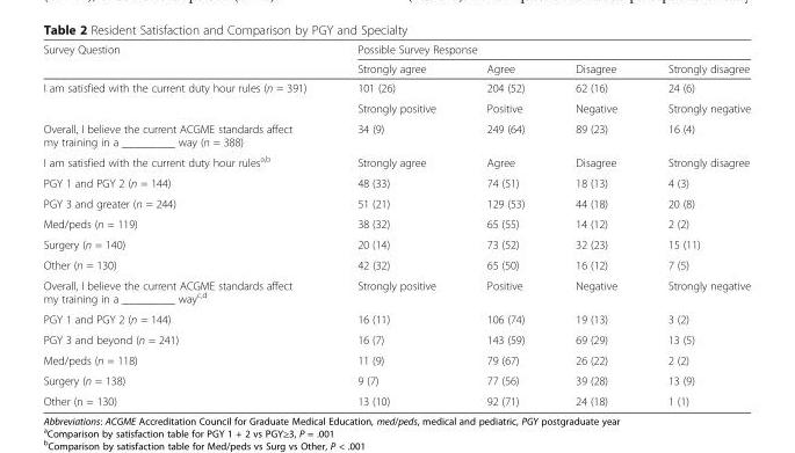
<table><thead><tr><td rowspan="2">Survey Question</td><td colspan="4">Possible Survey Response</td></tr><tr><td>Strongly agree</td><td>Agree</td><td>Disagree</td><td>Strongly disagree</td></tr></thead><tbody><tr><td rowspan="2">I am satisfied with the current duty hour rules (n = 391)</td><td>101 (26)</td><td>204 (52)</td><td>62 (16)</td><td>24 (6)</td></tr><tr><td>Strongly positive</td><td>Positive</td><td>Negative</td><td>Strongly negative</td></tr><tr><td>Overall, I believe the current ACGME standards affect my training in a _________ way (n = 388)</td><td>34 (9)</td><td>249 (64)</td><td>89 (23)</td><td>16 (4)</td></tr><tr><td>I am satisfied with the current duty hour rules<sup>a,b</sup></td><td>Strongly agree</td><td>Agree</td><td>Disagree</td><td>Strongly disagree</td></tr><tr><td>PGY 1 and PGY 2 (n = 144)</td><td>48 (33)</td><td>74 (51)</td><td>18 (13)</td><td>4 (3)</td></tr><tr><td>PGY 3 and greater (n = 244)</td><td>51 (21)</td><td>129 (53)</td><td>44 (18)</td><td>20 (8)</td></tr><tr><td>Med/peds (n = 119)</td><td>38 (32)</td><td>65 (55)</td><td>14 (12)</td><td>2 (2)</td></tr><tr><td>Surgery (n = 140)</td><td>20 (14)</td><td>73 (52)</td><td>32 (23)</td><td>15 (11)</td></tr><tr><td>Other (n = 130)</td><td>42 (32)</td><td>65 (50)</td><td>16 (12)</td><td>7 (5)</td></tr><tr><td>Overall, I believe the current ACGME standards affect my training in a _________ way<sup>c,d</sup></td><td>Strongly positive</td><td>Positive</td><td>Negative</td><td>Strongly negative</td></tr><tr><td>PGY 1 and PGY 2 (n = 144)</td><td>16 (11)</td><td>106 (74)</td><td>19 (13)</td><td>3 (2)</td></tr><tr><td>PGY 3 and beyond (n = 241)</td><td>16 (7)</td><td>143 (59)</td><td>69 (29)</td><td>13 (5)</td></tr><tr><td>Med/peds (n = 118)</td><td>11 (9)</td><td>79 (67)</td><td>26 (22)</td><td>2 (2)</td></tr><tr><td>Surgery (n = 138)</td><td>9 (7)</td><td>77 (56)</td><td>39 (28)</td><td>13 (9)</td></tr><tr><td>Other (n = 130)</td><td>13 (10)</td><td>92 (71)</td><td>24 (18)</td><td>1 (1)</td></tr></tbody></table>